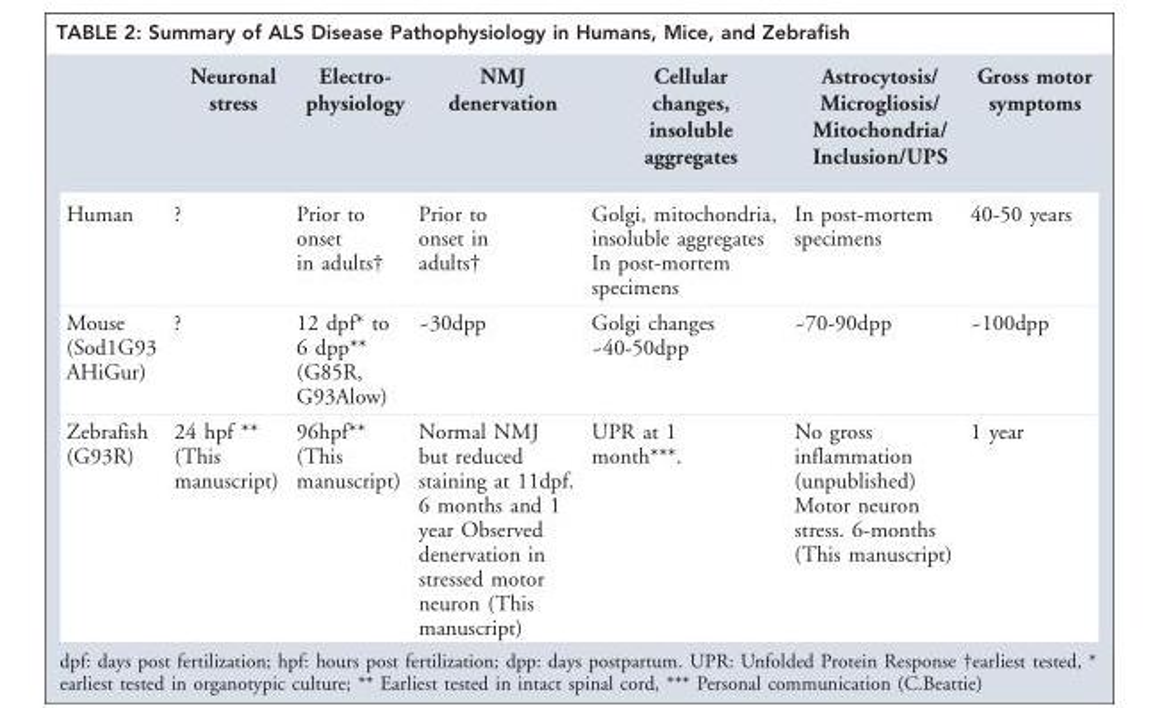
<table><thead><tr><td></td><td>Neuronal stress</td><td>Electro- physiology</td><td>NMJ denervation</td><td>Cellular changes, insoluble aggregates</td><td>Astrocytosis/ Microgliosis/ Mitochondria/ Inclusion/UPS</td><td>Gross motor symptoms</td></tr></thead><tbody><tr><td>Human</td><td>?</td><td>Prior to onset in adults†</td><td>Prior to onset in adults†</td><td>Golgi, mitochondria, insoluble aggregates In post-mortem specimens</td><td>In post-mortem specimens</td><td>40-50 years</td></tr><tr><td>Mouse (Sod1G93 AHiGur)</td><td>?</td><td>12 dpf* to 6 dpp** (G85R, G93Alow)</td><td>~30dpp</td><td>Golgi changes ~40-50dpp</td><td>~70-90dpp</td><td>~100dpp</td></tr><tr><td>Zebrafish (G93R)</td><td>24 hpf ** (This manuscript)</td><td>96hpf** (This manuscript)</td><td>Normal NMJ but reduced staining at 11dpf. 6 months and 1 year Observed denervation in stressed motor neuron (This manuscript)</td><td>UPR at 1 month***.</td><td>No gross inflammation (unpublished) Motor neuron stress. 6-months (This manuscript)</td><td>1 year</td></tr></tbody></table>